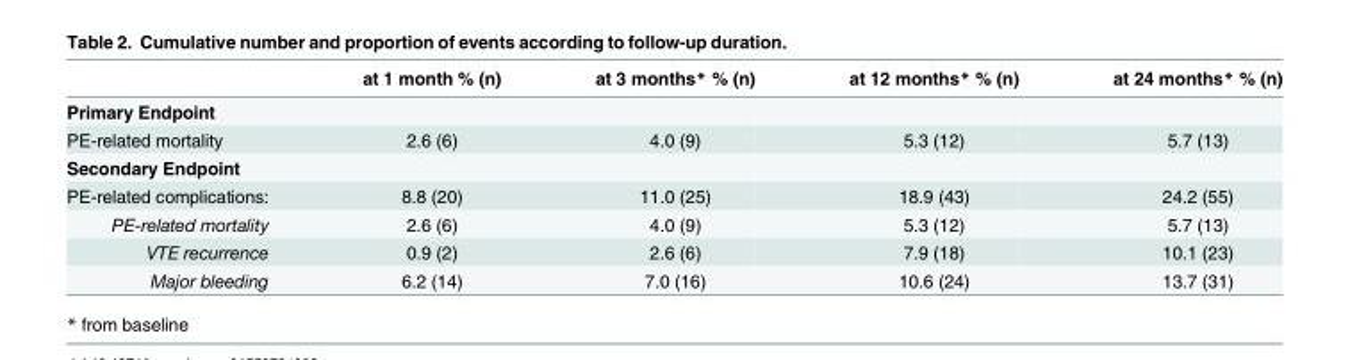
<table><thead><tr><td></td><td>at 1 month % (n)</td><td>at 3 months* % (n)</td><td>at 12 months* % (n)</td><td>at 24 months* % (n)</td></tr></thead><tbody><tr><td colspan="5">Primary Endpoint</td></tr><tr><td>PE-related mortality</td><td>2.6 (6)</td><td>4.0 (9)</td><td>5.3 (12)</td><td>5.7 (13)</td></tr><tr><td colspan="5">Secondary Endpoint</td></tr><tr><td>PE-related complications:</td><td>8.8 (20)</td><td>11.0 (25)</td><td>18.9 (43)</td><td>24.2 (55)</td></tr><tr><td>PE-related mortality</td><td>2.6 (6)</td><td>4.0 (9)</td><td>5.3 (12)</td><td>5.7 (13)</td></tr><tr><td>VTE recurrence</td><td>0.9 (2)</td><td>2.6 (6)</td><td>7.9 (18)</td><td>10.1 (23)</td></tr><tr><td>Major bleeding</td><td>6.2 (14)</td><td>7.0 (16)</td><td>10.6 (24)</td><td>13.7 (31)</td></tr></tbody></table>